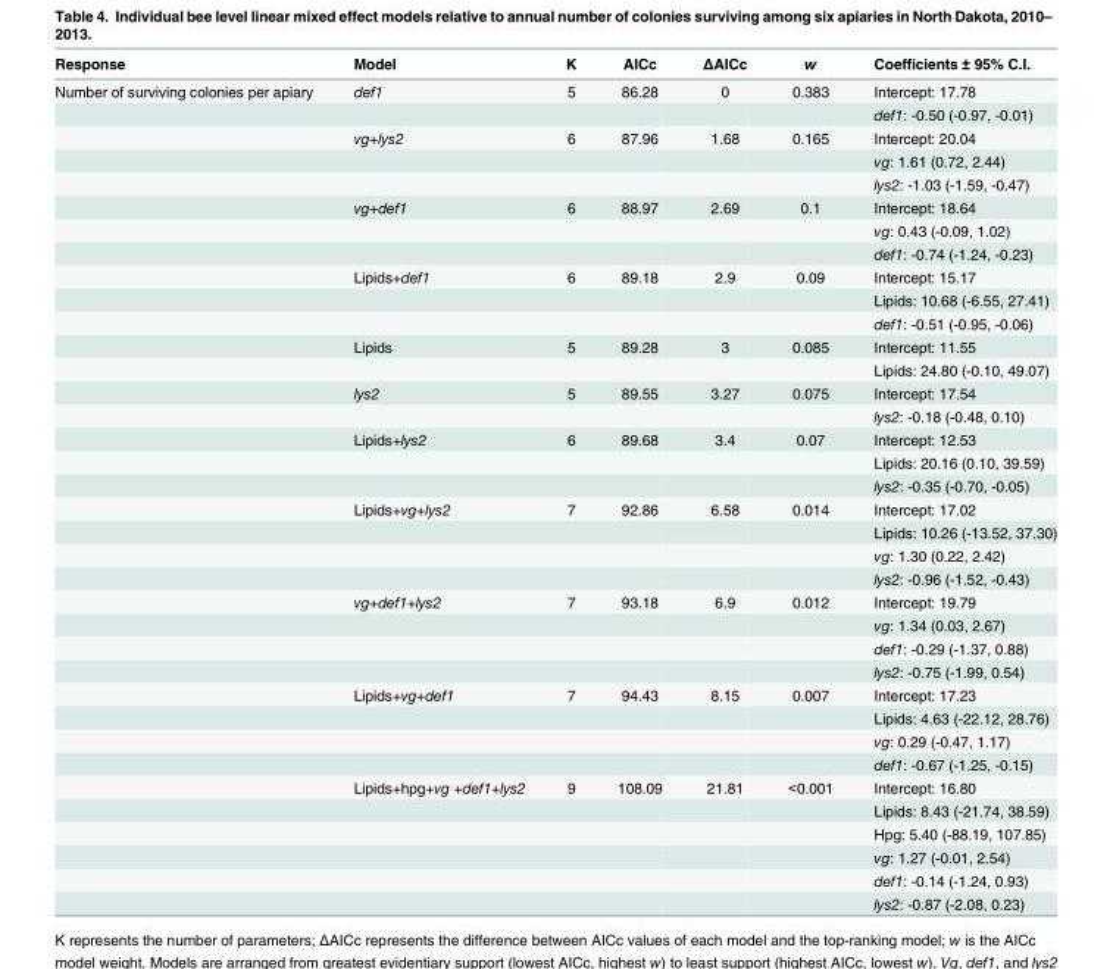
<table><thead><tr><td>Response</td><td>Model</td><td>K</td><td>AICc</td><td>ΔAICc</td><td>w</td><td>Coefficients ± 95% C.I.</td></tr></thead><tbody><tr><td rowspan="36">Number of surviving colonies per apiary</td><td>def1</td><td>5</td><td>86.28</td><td>0</td><td>0.383</td><td>Intercept: 17.78</td></tr><tr><td></td><td></td><td></td><td></td><td></td><td>def1: -0.50 (-0.97, -0.01)</td></tr><tr><td>vg+lys2</td><td>6</td><td>87.96</td><td>1.68</td><td>0.165</td><td>Intercept: 20.04</td></tr><tr><td></td><td></td><td></td><td></td><td></td><td>vg: 1.61 (0.72, 2.44)</td></tr><tr><td></td><td></td><td></td><td></td><td></td><td>lys2: -1.03 (-1.59, -0.47)</td></tr><tr><td>vg+def1</td><td>6</td><td>88.97</td><td>2.69</td><td>0.1</td><td>Intercept: 18.64</td></tr><tr><td></td><td></td><td></td><td></td><td></td><td>vg: 0.43 (-0.09, 1.02)</td></tr><tr><td></td><td></td><td></td><td></td><td></td><td>def1: -0.74 (-1.24, -0.23)</td></tr><tr><td>Lipids+def1</td><td>6</td><td>89.18</td><td>2.9</td><td>0.09</td><td>Intercept: 15.17</td></tr><tr><td></td><td></td><td></td><td></td><td></td><td>Lipids: 10.68 (-6.55, 27.41)</td></tr><tr><td></td><td></td><td></td><td></td><td></td><td>def1: -0.51 (-0.95, -0.06)</td></tr><tr><td>Lipids</td><td>5</td><td>89.28</td><td>3</td><td>0.085</td><td>Intercept: 11.55</td></tr><tr><td></td><td></td><td></td><td></td><td></td><td>Lipids: 24.80 (-0.10, 49.07)</td></tr><tr><td>lys2</td><td>5</td><td>89.55</td><td>3.27</td><td>0.075</td><td>Intercept: 17.54</td></tr><tr><td></td><td></td><td></td><td></td><td></td><td>lys2: -0.18 (-0.48, 0.10)</td></tr><tr><td>Lipids+lys2</td><td>6</td><td>89.68</td><td>3.4</td><td>0.07</td><td>Intercept: 12.53</td></tr><tr><td></td><td></td><td></td><td></td><td></td><td>Lipids: 20.16 (0.10, 39.59)</td></tr><tr><td></td><td></td><td></td><td></td><td></td><td>lys2: -0.35 (-0.70, -0.05)</td></tr><tr><td>Lipids+vg+lys2</td><td>7</td><td>92.86</td><td>6.58</td><td>0.014</td><td>Intercept: 17.02</td></tr><tr><td></td><td></td><td></td><td></td><td></td><td>Lipids: 10.26 (-13.52, 37.30)</td></tr><tr><td></td><td></td><td></td><td></td><td></td><td>vg: 1.30 (0.22, 2.42)</td></tr><tr><td></td><td></td><td></td><td></td><td></td><td>lys2: -0.96 (-1.52, -0.43)</td></tr><tr><td>vg+def1+lys2</td><td>7</td><td>93.18</td><td>6.9</td><td>0.012</td><td>Intercept: 19.79</td></tr><tr><td></td><td></td><td></td><td></td><td></td><td>vg: 1.34 (0.03, 2.67)</td></tr><tr><td></td><td></td><td></td><td></td><td></td><td>def1: -0.29 (-1.37, 0.88)</td></tr><tr><td></td><td></td><td></td><td></td><td></td><td>lys2: -0.75 (-1.99, 0.54)</td></tr><tr><td>Lipids+vg+def1</td><td>7</td><td>94.43</td><td>8.15</td><td>0.007</td><td>Intercept: 17.23</td></tr><tr><td></td><td></td><td></td><td></td><td></td><td>Lipids: 4.63 (-22.12, 28.76)</td></tr><tr><td></td><td></td><td></td><td></td><td></td><td>vg: 0.29 (-0.47, 1.17)</td></tr><tr><td></td><td></td><td></td><td></td><td></td><td>def1: -0.67 (-1.25, -0.15)</td></tr><tr><td>Lipids+hpg+vg +def1+lys2</td><td>9</td><td>108.09</td><td>21.81</td><td>&lt;0.001</td><td>Intercept: 16.80</td></tr><tr><td></td><td></td><td></td><td></td><td></td><td>Lipids: 8.43 (-21.74, 38.59)</td></tr><tr><td></td><td></td><td></td><td></td><td></td><td>Hpg: 5.40 (-88.19, 107.85)</td></tr><tr><td></td><td></td><td></td><td></td><td></td><td>vg: 1.27 (-0.01, 2.54)</td></tr><tr><td></td><td></td><td></td><td></td><td></td><td>def1: -0.14 (-1.24, 0.93)</td></tr><tr><td></td><td></td><td></td><td></td><td></td><td>lys2: -0.87 (-2.08, 0.23)</td></tr></tbody></table>